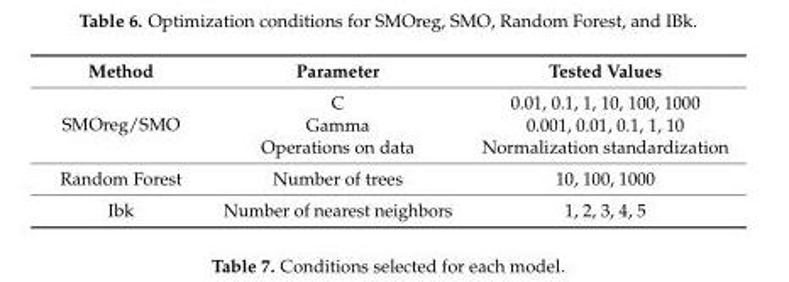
<table><thead><tr><td>Method</td><td>Parameter</td><td>Tested Values</td></tr></thead><tbody><tr><td rowspan="3">SMOreg/SMO</td><td>C</td><td>0.01, 0.1, 1, 10, 100, 1000</td></tr><tr><td>Gamma</td><td>0.001, 0.01, 0.1, 1, 10</td></tr><tr><td>Operations on data</td><td>Normalization standardization</td></tr><tr><td>Random Forest</td><td>Number of trees</td><td>10, 100, 1000</td></tr><tr><td>Ibk</td><td>Number of nearest neighbors</td><td>1, 2, 3, 4, 5</td></tr></tbody></table>